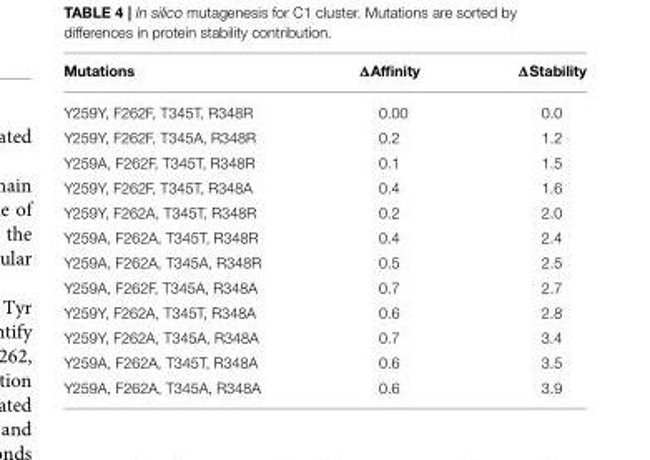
<table><thead><tr><td>Mutations</td><td>ΔAffinity</td><td>ΔStability</td></tr></thead><tbody><tr><td>Y259Y, F262F, T345T, R348R</td><td>0.00</td><td>0.0</td></tr><tr><td>Y259Y, F262F, T345A, R348R</td><td>0.2</td><td>1.2</td></tr><tr><td>Y259A, F262F, T345T, R348R</td><td>0.1</td><td>1.5</td></tr><tr><td>Y259Y, F262F, T345T, R348A</td><td>0.4</td><td>1.6</td></tr><tr><td>Y259Y, F262A, T345T, R348R</td><td>0.2</td><td>2.0</td></tr><tr><td>Y259A, F262A, T345T, R348R</td><td>0.4</td><td>2.4</td></tr><tr><td>Y259A, F262A, T345A, R348R</td><td>0.5</td><td>2.5</td></tr><tr><td>Y259A, F262F, T345A, R348A</td><td>0.7</td><td>2.7</td></tr><tr><td>Y259Y, F262A, T345T, R348A</td><td>0.6</td><td>2.8</td></tr><tr><td>Y259Y, F262A, T345A, R348A</td><td>0.7</td><td>3.4</td></tr><tr><td>Y259A, F262A, T345T, R348A</td><td>0.6</td><td>3.5</td></tr><tr><td>Y259A, F262A, T345A, R348A</td><td>0.6</td><td>3.9</td></tr></tbody></table>